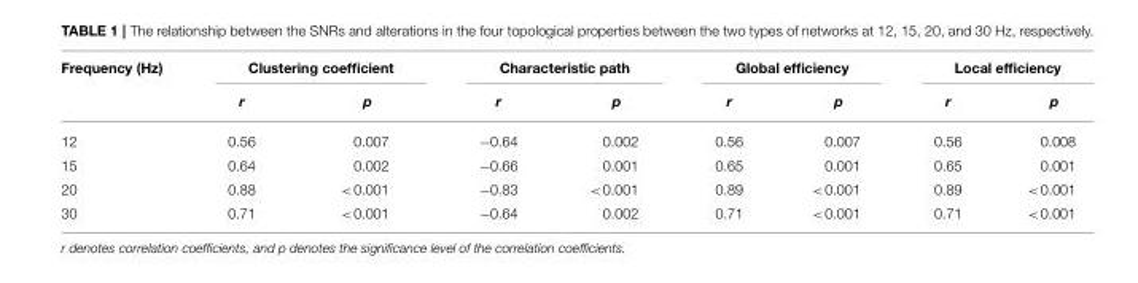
<table><thead><tr><td rowspan="2">Frequency (Hz)</td><td colspan="2">Clustering coefficient</td><td colspan="2">Characteristic path</td><td colspan="2">Global efficiency</td><td colspan="2">Local efficiency</td></tr><tr><td>r</td><td>p</td><td>r</td><td>p</td><td>r</td><td>p</td><td>r</td><td>p</td></tr></thead><tbody><tr><td>12</td><td>0.56</td><td>0.007</td><td>−0.64</td><td>0.002</td><td>0.56</td><td>0.007</td><td>0.56</td><td>0.008</td></tr><tr><td>15</td><td>0.64</td><td>0.002</td><td>−0.66</td><td>0.001</td><td>0.65</td><td>0.001</td><td>0.65</td><td>0.001</td></tr><tr><td>20</td><td>0.88</td><td>&lt;0.001</td><td>−0.83</td><td>&lt;0.001</td><td>0.89</td><td>&lt;0.001</td><td>0.89</td><td>&lt;0.001</td></tr><tr><td>30</td><td>0.71</td><td>&lt;0.001</td><td>−0.64</td><td>0.002</td><td>0.71</td><td>&lt;0.001</td><td>0.71</td><td>&lt;0.001</td></tr></tbody></table>